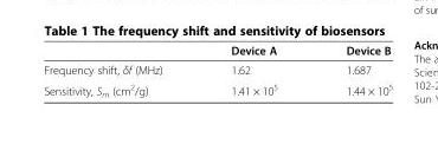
<table><thead><tr><td></td><td>Device A</td><td>Device B</td></tr></thead><tbody><tr><td>Frequency shift, δf (MHz)</td><td>1.62</td><td>1.687</td></tr><tr><td>Sensitivity, S<sub>m</sub> (cm<sup>2</sup>/g)</td><td>1.41 × 10<sup>5</sup></td><td>1.44 × 10<sup>5</sup></td></tr></tbody></table>